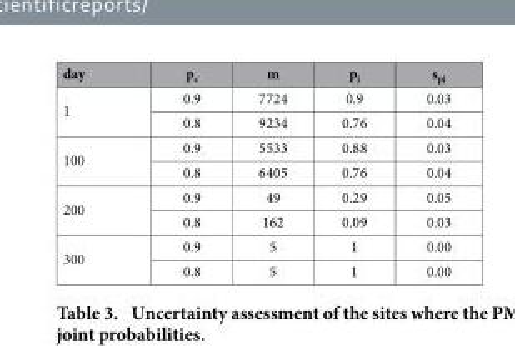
<table><thead><tr><td>day</td><td>p<sub>c</sub></td><td>m</td><td>p<sub>j</sub></td><td>s<sub>pj</sub></td></tr></thead><tbody><tr><td rowspan="2">1</td><td>0.9</td><td>7724</td><td>0.9</td><td>0.03</td></tr><tr><td>0.8</td><td>9234</td><td>0.76</td><td>0.04</td></tr><tr><td rowspan="2">100</td><td>0.9</td><td>5533</td><td>0.88</td><td>0.03</td></tr><tr><td>0.8</td><td>6405</td><td>0.76</td><td>0.04</td></tr><tr><td rowspan="2">200</td><td>0.9</td><td>49</td><td>0.29</td><td>0.05</td></tr><tr><td>0.8</td><td>162</td><td>0.09</td><td>0.03</td></tr><tr><td rowspan="2">300</td><td>0.9</td><td>5</td><td>1</td><td>0.00</td></tr><tr><td>0.8</td><td>5</td><td>1</td><td>0.00</td></tr></tbody></table>